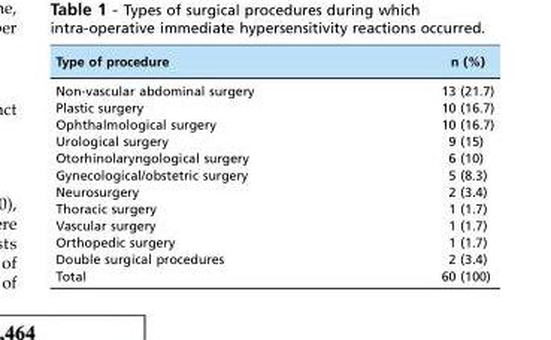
<table><thead><tr><td>Type of procedure</td><td>n (%)</td></tr></thead><tbody><tr><td>Non-vascular abdominal surgery</td><td>13 (21.7)</td></tr><tr><td>Plastic surgery</td><td>10 (16.7)</td></tr><tr><td>Ophthalmological surgery</td><td>10 (16.7)</td></tr><tr><td>Urological surgery</td><td>9 (15)</td></tr><tr><td>Otorhinolaryngological surgery</td><td>6 (10)</td></tr><tr><td>Gynecological/obstetric surgery</td><td>5 (8.3)</td></tr><tr><td>Neurosurgery</td><td>2 (3.4)</td></tr><tr><td>Thoracic surgery</td><td>1 (1.7)</td></tr><tr><td>Vascular surgery</td><td>1 (1.7)</td></tr><tr><td>Orthopedic surgery</td><td>1 (1.7)</td></tr><tr><td>Double surgical procedures</td><td>2 (3.4)</td></tr><tr><td>Total</td><td>60 (100)</td></tr></tbody></table>